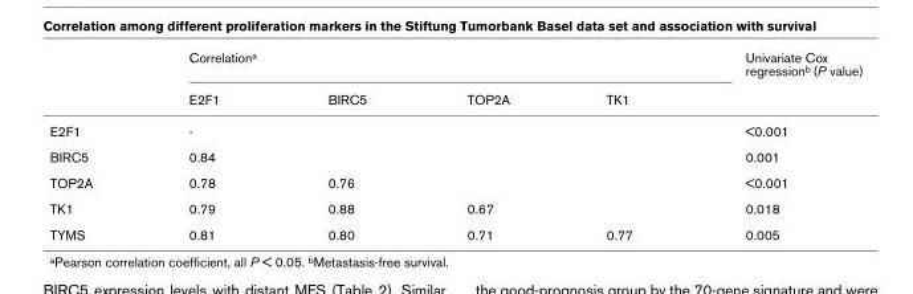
<table><thead><tr><td rowspan="2"></td><td colspan="4">Correlation<sup>a</sup></td><td rowspan="2">Univariate Cox regression<sup>b</sup> (P value)</td></tr><tr><td>E2F1</td><td>BIRC5</td><td>TOP2A</td><td>TK1</td></tr></thead><tbody><tr><td>E2F1</td><td>-</td><td></td><td></td><td></td><td>&lt;0.001</td></tr><tr><td>BIRC5</td><td>0.84</td><td></td><td></td><td></td><td>0.001</td></tr><tr><td>TOP2A</td><td>0.78</td><td>0.76</td><td></td><td></td><td>&lt;0.001</td></tr><tr><td>TK1</td><td>0.79</td><td>0.88</td><td>0.67</td><td></td><td>0.018</td></tr><tr><td>TYMS</td><td>0.81</td><td>0.80</td><td>0.71</td><td>0.77</td><td>0.005</td></tr></tbody></table>